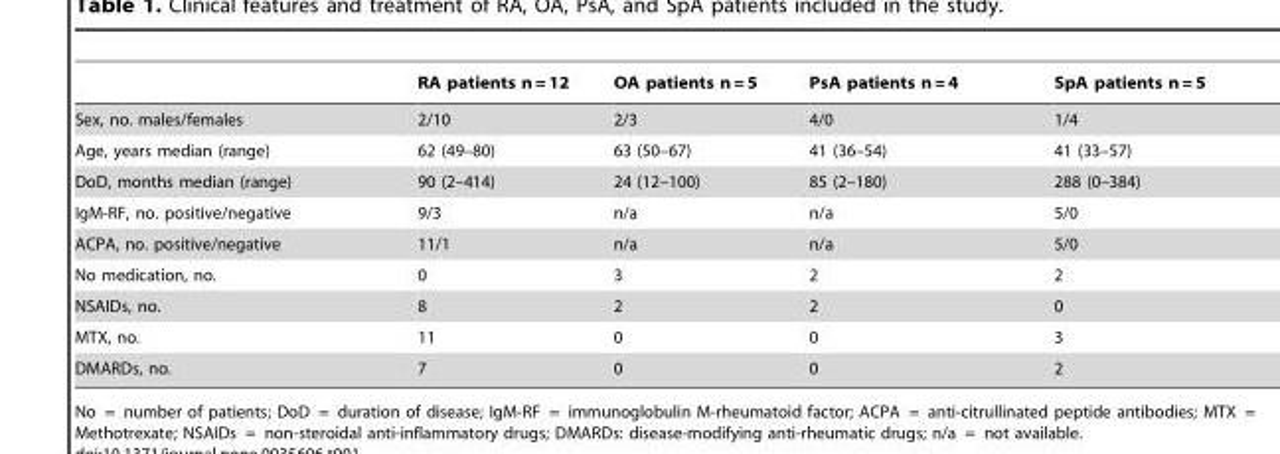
<table><thead><tr><td></td><td>RA patients n = 12</td><td>OA patients n = 5</td><td>PsA patients n = 4</td><td>SpA patients n = 5</td></tr></thead><tbody><tr><td>Sex, no. males/females</td><td>2/10</td><td>2/3</td><td>4/0</td><td>1/4</td></tr><tr><td>Age, years median (range)</td><td>62 (49–80)</td><td>63 (50–67)</td><td>41 (36–54)</td><td>41 (33–57)</td></tr><tr><td>DoD, months median (range)</td><td>90 (2–414)</td><td>24 (12–100)</td><td>85 (2–180)</td><td>288 (0–384)</td></tr><tr><td>IgM-RF, no. positive/negative</td><td>9/3</td><td>n/a</td><td>n/a</td><td>5/0</td></tr><tr><td>ACPA, no. positive/negative</td><td>11/1</td><td>n/a</td><td>n/a</td><td>5/0</td></tr><tr><td>No medication, no.</td><td>0</td><td>3</td><td>2</td><td>2</td></tr><tr><td>NSAIDs, no.</td><td>8</td><td>2</td><td>2</td><td>0</td></tr><tr><td>MTX, no.</td><td>11</td><td>0</td><td>0</td><td>3</td></tr><tr><td>DMARDs, no.</td><td>7</td><td>0</td><td>0</td><td>2</td></tr></tbody></table>